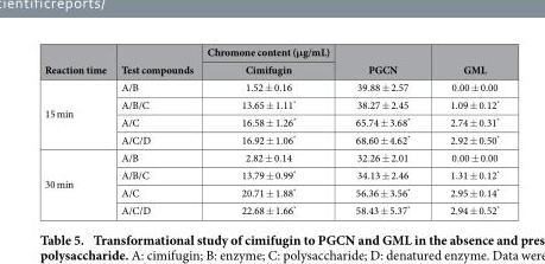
<table><thead><tr><td rowspan="2">Reaction time</td><td rowspan="2">Test compounds</td><td rowspan="2">Chromone content (μg/mL) Cimifugin</td><td rowspan="2">PGCN</td><td rowspan="2">GML</td></tr><tr></tr></thead><tbody><tr><td rowspan="4">15 min</td><td>A/B</td><td>1.52 ± 0.16</td><td>39.88 ± 2.57</td><td>0.00 ± 0.00</td></tr><tr><td>A/B/C</td><td>13.65 ± 1.11*</td><td>38.27 ± 2.45</td><td>1.09 ± 0.12*</td></tr><tr><td>A/C</td><td>16.58 ± 1.26*</td><td>65.74 ± 3.68*</td><td>2.74 ± 0.31*</td></tr><tr><td>A/C/D</td><td>16.92 ± 1.06*</td><td>68.60 ± 4.62*</td><td>2.92 ± 0.50*</td></tr><tr><td rowspan="4">30 min</td><td>A/B</td><td>2.82 ± 0.14</td><td>32.26 ± 2.01</td><td>0.00 ± 0.00</td></tr><tr><td>A/B/C</td><td>13.79 ± 0.99*</td><td>34.13 ± 2.46</td><td>1.31 ± 0.12*</td></tr><tr><td>A/C</td><td>20.71 ± 1.88*</td><td>56.36 ± 3.56*</td><td>2.95 ± 0.14*</td></tr><tr><td>A/C/D</td><td>22.68 ± 1.66*</td><td>58.43 ± 5.37*</td><td>2.94 ± 0.52*</td></tr></tbody></table>